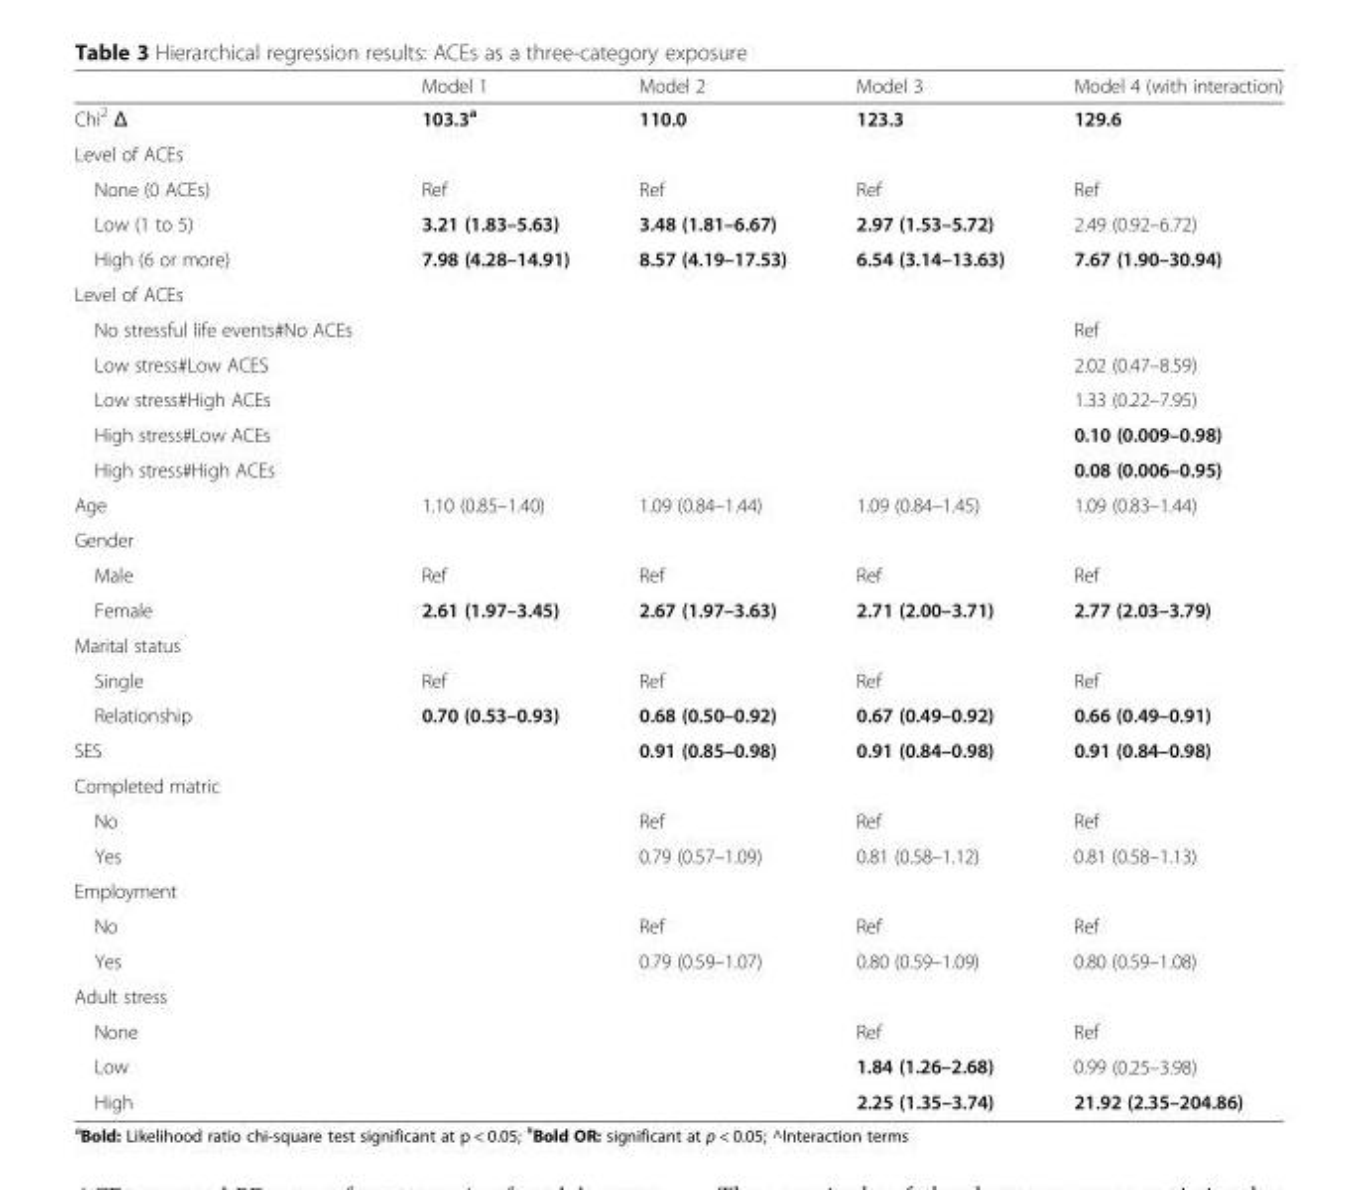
<table><thead><tr><td></td><td>Model 1</td><td>Model 2</td><td>Model 3</td><td>Model 4 (with interaction)</td></tr></thead><tbody><tr><td>Chi<sup>2</sup> Δ</td><td>103.3<sup>a</sup></td><td>110.0</td><td>123.3</td><td>129.6</td></tr><tr><td colspan="5">Level of ACEs</td></tr><tr><td>None (0 ACEs)</td><td>Ref</td><td>Ref</td><td>Ref</td><td>Ref</td></tr><tr><td>Low (1 to 5)</td><td>3.21 (1.83–5.63)</td><td>3.48 (1.81–6.67)</td><td>2.97 (1.53–5.72)</td><td>2.49 (0.92–6.72)</td></tr><tr><td>High (6 or more)</td><td>7.98 (4.28–14.91)</td><td>8.57 (4.19–17.53)</td><td>6.54 (3.14–13.63)</td><td>7.67 (1.90–30.94)</td></tr><tr><td colspan="5">Level of ACEs</td></tr><tr><td>No stressful life events#No ACEs</td><td></td><td></td><td></td><td>Ref</td></tr><tr><td>Low stress#Low ACES</td><td></td><td></td><td></td><td>2.02 (0.47–8.59)</td></tr><tr><td>Low stress#High ACEs</td><td></td><td></td><td></td><td>1.33 (0.22–7.95)</td></tr><tr><td>High stress#Low ACEs</td><td></td><td></td><td></td><td>0.10 (0.009–0.98)</td></tr><tr><td>High stress#High ACEs</td><td></td><td></td><td></td><td>0.08 (0.006–0.95)</td></tr><tr><td>Age</td><td>1.10 (0.85–1.40)</td><td>1.09 (0.84–1.44)</td><td>1.09 (0.84–1.45)</td><td>1.09 (0.83–1.44)</td></tr><tr><td colspan="5">Gender</td></tr><tr><td>Male</td><td>Ref</td><td>Ref</td><td>Ref</td><td>Ref</td></tr><tr><td>Female</td><td>2.61 (1.97–3.45)</td><td>2.67 (1.97–3.63)</td><td>2.71 (2.00–3.71)</td><td>2.77 (2.03–3.79)</td></tr><tr><td colspan="5">Marital status</td></tr><tr><td>Single</td><td>Ref</td><td>Ref</td><td>Ref</td><td>Ref</td></tr><tr><td>Relationship</td><td>0.70 (0.53–0.93)</td><td>0.68 (0.50–0.92)</td><td>0.67 (0.49–0.92)</td><td>0.66 (0.49–0.91)</td></tr><tr><td>SES</td><td></td><td>0.91 (0.85–0.98)</td><td>0.91 (0.84–0.98)</td><td>0.91 (0.84–0.98)</td></tr><tr><td colspan="5">Completed matric</td></tr><tr><td>No</td><td></td><td>Ref</td><td>Ref</td><td>Ref</td></tr><tr><td>Yes</td><td></td><td>0.79 (0.57–1.09)</td><td>0.81 (0.58–1.12)</td><td>0.81 (0.58–1.13)</td></tr><tr><td colspan="5">Employment</td></tr><tr><td>No</td><td></td><td>Ref</td><td>Ref</td><td>Ref</td></tr><tr><td>Yes</td><td></td><td>0.79 (0.59–1.07)</td><td>0.80 (0.59–1.09)</td><td>0.80 (0.59–1.08)</td></tr><tr><td colspan="5">Adult stress</td></tr><tr><td>None</td><td></td><td></td><td>Ref</td><td>Ref</td></tr><tr><td>Low</td><td></td><td></td><td>1.84 (1.26–2.68)</td><td>0.99 (0.25–3.98)</td></tr><tr><td>High</td><td></td><td></td><td>2.25 (1.35–3.74)</td><td>21.92 (2.35–204.86)</td></tr></tbody></table>